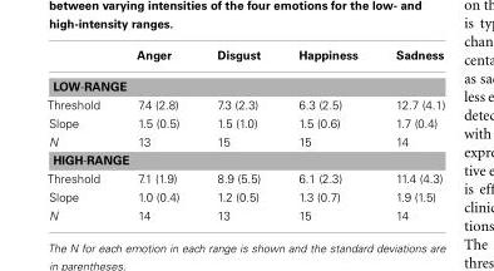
<table><thead><tr><td></td><td>Anger</td><td>Disgust</td><td>Happiness</td><td>Sadness</td></tr></thead><tbody><tr><td colspan="5">LOW-RANGE</td></tr><tr><td>Threshold</td><td>7.4 (2.8)</td><td>7.3 (2.3)</td><td>6.3 (2.5)</td><td>12.7 (4.1)</td></tr><tr><td>Slope</td><td>1.5 (0.5)</td><td>1.5 (1.0)</td><td>1.5 (0.6)</td><td>1.7 (0.4)</td></tr><tr><td>N</td><td>13</td><td>15</td><td>15</td><td>14</td></tr><tr><td colspan="5">HIGH-RANGE</td></tr><tr><td>Threshold</td><td>7.1 (1.9)</td><td>8.9 (5.5)</td><td>6.1 (2.3)</td><td>11.4 (4.3)</td></tr><tr><td>Slope</td><td>1.0 (0.4)</td><td>1.2 (0.5)</td><td>1.3 (0.7)</td><td>1.9 (1.5)</td></tr><tr><td>N</td><td>14</td><td>13</td><td>15</td><td>14</td></tr></tbody></table>